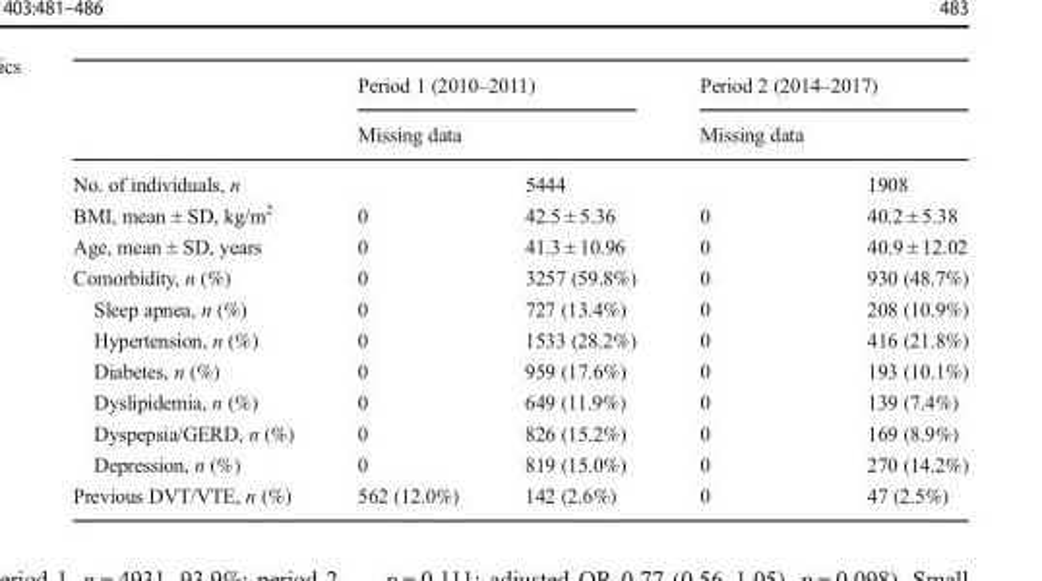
<table><thead><tr><td rowspan="2"></td><td colspan="2">Period 1 (2010–2011)</td><td colspan="2">Period 2 (2014–2017)</td></tr><tr><td>Missing data</td><td></td><td>Missing data</td><td></td></tr></thead><tbody><tr><td>No. of individuals, n</td><td></td><td>5444</td><td></td><td>1908</td></tr><tr><td>BMI, mean ± SD, kg/m<sup>2</sup></td><td>0</td><td>42.5 ± 5.36</td><td>0</td><td>40.2 ± 5.38</td></tr><tr><td>Age, mean ± SD, years</td><td>0</td><td>41.3 ± 10.96</td><td>0</td><td>40.9 ± 12.02</td></tr><tr><td>Comorbidity, n (%)</td><td>0</td><td>3257 (59.8%)</td><td>0</td><td>930 (48.7%)</td></tr><tr><td>Sleep apnea, n (%)</td><td>0</td><td>727 (13.4%)</td><td>0</td><td>208 (10.9%)</td></tr><tr><td>Hypertension, n (%)</td><td>0</td><td>1533 (28.2%)</td><td>0</td><td>416 (21.8%)</td></tr><tr><td>Diabetes, n (%)</td><td>0</td><td>959 (17.6%)</td><td>0</td><td>193 (10.1%)</td></tr><tr><td>Dyslipidemia, n (%)</td><td>0</td><td>649 (11.9%)</td><td>0</td><td>139 (7.4%)</td></tr><tr><td>Dyspepsia/GERD, n (%)</td><td>0</td><td>826 (15.2%)</td><td>0</td><td>169 (8.9%)</td></tr><tr><td>Depression, n (%)</td><td>0</td><td>819 (15.0%)</td><td>0</td><td>270 (14.2%)</td></tr><tr><td>Previous DVT/VTE, n (%)</td><td>562 (12.0%)</td><td>142 (2.6%)</td><td>0</td><td>47 (2.5%)</td></tr></tbody></table>